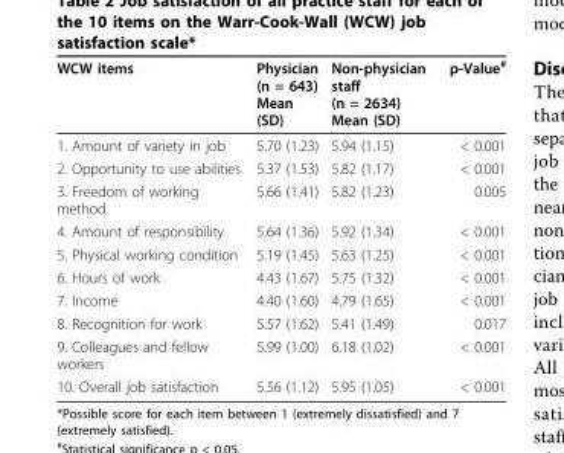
<table><thead><tr><td>WCW items</td><td>Physician (n = 643) Mean (SD)</td><td>Non-physician staff (n = 2634) Mean (SD)</td><td>p-Value<sup>#</sup></td></tr></thead><tbody><tr><td>1. Amount of variety in job</td><td>5.70 (1.23)</td><td>5.94 (1.15)</td><td>&lt; 0.001</td></tr><tr><td>2. Opportunity to use abilities</td><td>5.37 (1.53)</td><td>5.82 (1.17)</td><td>&lt; 0.001</td></tr><tr><td>3. Freedom of working method</td><td>5.66 (1.41)</td><td>5.82 (1.23)</td><td>0.005</td></tr><tr><td>4. Amount of responsibility</td><td>5.64 (1.36)</td><td>5.92 (1.34)</td><td>&lt; 0.001</td></tr><tr><td>5. Physical working condition</td><td>5.19 (1.45)</td><td>5.63 (1.25)</td><td>&lt; 0.001</td></tr><tr><td>6. Hours of work</td><td>4.43 (1.67)</td><td>5.75 (1.32)</td><td>&lt; 0.001</td></tr><tr><td>7. Income</td><td>4.40 (1.60)</td><td>4.79 (1.65)</td><td>&lt; 0.001</td></tr><tr><td>8. Recognition for work</td><td>5.57 (1.62)</td><td>5.41 (1.49)</td><td>0.017</td></tr><tr><td>9. Colleagues and fellow workers</td><td>5.99 (1.00)</td><td>6.18 (1.02)</td><td>&lt; 0.001</td></tr><tr><td>10. Overall job satisfaction</td><td>5.56 (1.12)</td><td>5.95 (1.05)</td><td>&lt; 0.001</td></tr></tbody></table>